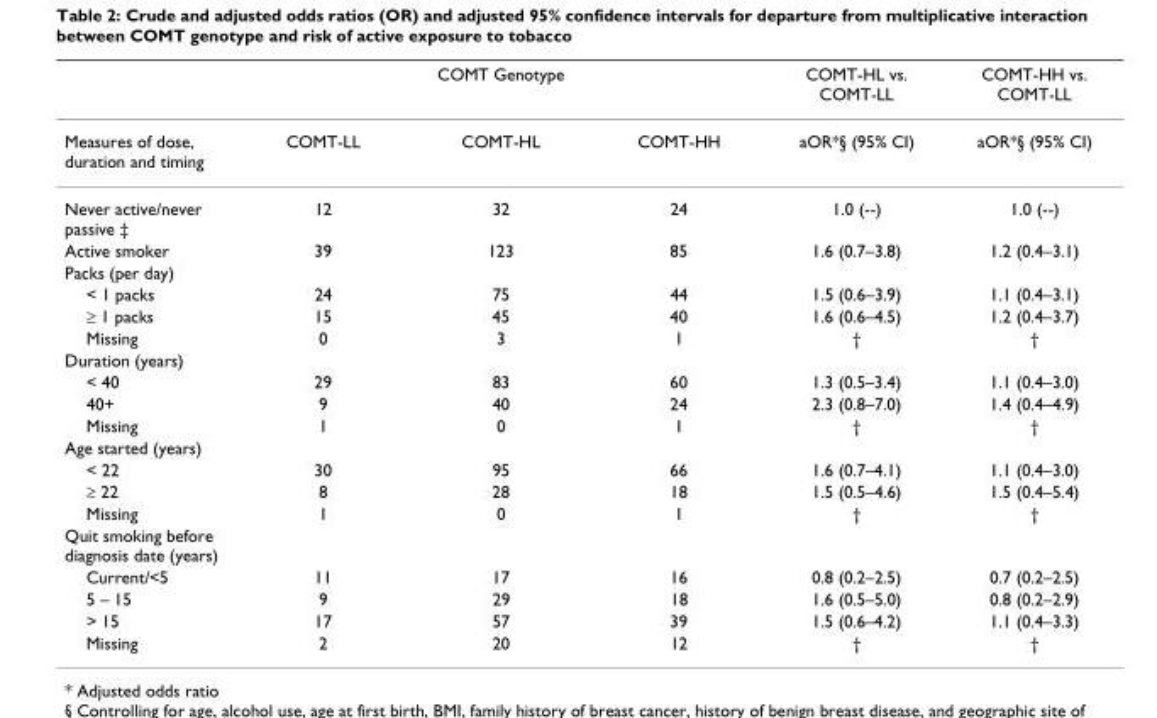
<table><thead><tr><td rowspan="2">Measures of dose, duration and timing</td><td colspan="3">COMT Genotype</td><td rowspan="2">COMT-HL vs. COMT-LL aOR*§ (95% CI)</td><td rowspan="2">COMT-HH vs. COMT-LL aOR*§ (95% CI)</td></tr><tr><td>COMT-LL</td><td>COMT-HL</td><td>COMT-HH</td></tr></thead><tbody><tr><td>Never active/never passive ‡</td><td>12</td><td>32</td><td>24</td><td>1.0 (--)</td><td>1.0 (--)</td></tr><tr><td>Active smoker</td><td>39</td><td>123</td><td>85</td><td>1.6 (0.7–3.8)</td><td>1.2 (0.4–3.1)</td></tr><tr><td colspan="6">Packs (per day)</td></tr><tr><td>&lt; 1 packs</td><td>24</td><td>75</td><td>44</td><td>1.5 (0.6–3.9)</td><td>1.1 (0.4–3.1)</td></tr><tr><td>≥ 1 packs</td><td>15</td><td>45</td><td>40</td><td>1.6 (0.6–4.5)</td><td>1.2 (0.4–3.7)</td></tr><tr><td>Missing</td><td>0</td><td>3</td><td>1</td><td>†</td><td>†</td></tr><tr><td colspan="6">Duration (years)</td></tr><tr><td>&lt; 40</td><td>29</td><td>83</td><td>60</td><td>1.3 (0.5–3.4)</td><td>1.1 (0.4–3.0)</td></tr><tr><td>40+</td><td>9</td><td>40</td><td>24</td><td>2.3 (0.8–7.0)</td><td>1.4 (0.4–4.9)</td></tr><tr><td>Missing</td><td>1</td><td>0</td><td>1</td><td>†</td><td>†</td></tr><tr><td colspan="6">Age started (years)</td></tr><tr><td>&lt; 22</td><td>30</td><td>95</td><td>66</td><td>1.6 (0.7–4.1)</td><td>1.1 (0.4–3.0)</td></tr><tr><td>≥ 22</td><td>8</td><td>28</td><td>18</td><td>1.5 (0.5–4.6)</td><td>1.5 (0.4–5.4)</td></tr><tr><td>Missing</td><td>1</td><td>0</td><td>1</td><td>†</td><td>†</td></tr><tr><td colspan="6">Quit smoking before diagnosis date (years)</td></tr><tr><td>Current/&lt;5</td><td>11</td><td>17</td><td>16</td><td>0.8 (0.2–2.5)</td><td>0.7 (0.2–2.5)</td></tr><tr><td>5 – 15</td><td>9</td><td>29</td><td>18</td><td>1.6 (0.5–5.0)</td><td>0.8 (0.2–2.9)</td></tr><tr><td>&gt; 15</td><td>17</td><td>57</td><td>39</td><td>1.5 (0.6–4.2)</td><td>1.1 (0.4–3.3)</td></tr><tr><td>Missing</td><td>2</td><td>20</td><td>12</td><td>†</td><td>†</td></tr></tbody></table>